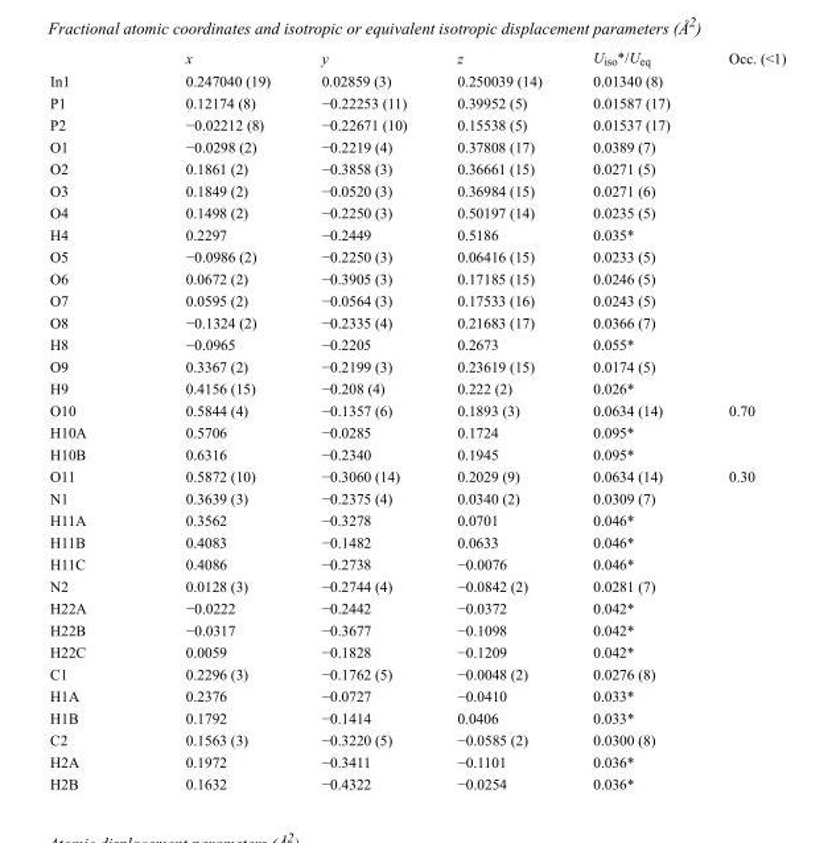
<table><thead><tr><td></td><td>x</td><td>y</td><td>z</td><td>U<sub>iso</sub>*/U<sub>eq</sub></td><td>Occ. (&lt;1)</td></tr></thead><tbody><tr><td>In1</td><td>0.247040 (19)</td><td>0.02859 (3)</td><td>0.250039 (14)</td><td>0.01340 (8)</td><td></td></tr><tr><td>P1</td><td>0.12174 (8)</td><td>−0.22253 (11)</td><td>0.39952 (5)</td><td>0.01587 (17)</td><td></td></tr><tr><td>P2</td><td>−0.02212 (8)</td><td>−0.22671 (10)</td><td>0.15538 (5)</td><td>0.01537 (17)</td><td></td></tr><tr><td>O1</td><td>−0.0298 (2)</td><td>−0.2219 (4)</td><td>0.37808 (17)</td><td>0.0389 (7)</td><td></td></tr><tr><td>O2</td><td>0.1861 (2)</td><td>−0.3858 (3)</td><td>0.36661 (15)</td><td>0.0271 (5)</td><td></td></tr><tr><td>O3</td><td>0.1849 (2)</td><td>−0.0520 (3)</td><td>0.36984 (15)</td><td>0.0271 (6)</td><td></td></tr><tr><td>O4</td><td>0.1498 (2)</td><td>−0.2250 (3)</td><td>0.50197 (14)</td><td>0.0235 (5)</td><td></td></tr><tr><td>H4</td><td>0.2297</td><td>−0.2449</td><td>0.5186</td><td>0.035*</td><td></td></tr><tr><td>O5</td><td>−0.0986 (2)</td><td>−0.2250 (3)</td><td>0.06416 (15)</td><td>0.0233 (5)</td><td></td></tr><tr><td>O6</td><td>0.0672 (2)</td><td>−0.3905 (3)</td><td>0.17185 (15)</td><td>0.0246 (5)</td><td></td></tr><tr><td>O7</td><td>0.0595 (2)</td><td>−0.0564 (3)</td><td>0.17533 (16)</td><td>0.0243 (5)</td><td></td></tr><tr><td>O8</td><td>−0.1324 (2)</td><td>−0.2335 (4)</td><td>0.21683 (17)</td><td>0.0366 (7)</td><td></td></tr><tr><td>H8</td><td>−0.0965</td><td>−0.2205</td><td>0.2673</td><td>0.055*</td><td></td></tr><tr><td>O9</td><td>0.3367 (2)</td><td>−0.2199 (3)</td><td>0.23619 (15)</td><td>0.0174 (5)</td><td></td></tr><tr><td>H9</td><td>0.4156 (15)</td><td>−0.208 (4)</td><td>0.222 (2)</td><td>0.026*</td><td></td></tr><tr><td>O10</td><td>0.5844 (4)</td><td>−0.1357 (6)</td><td>0.1893 (3)</td><td>0.0634 (14)</td><td>0.70</td></tr><tr><td>H10A</td><td>0.5706</td><td>−0.0285</td><td>0.1724</td><td>0.095*</td><td></td></tr><tr><td>H10B</td><td>0.6316</td><td>−0.2340</td><td>0.1945</td><td>0.095*</td><td></td></tr><tr><td>O11</td><td>0.5872 (10)</td><td>−0.3060 (14)</td><td>0.2029 (9)</td><td>0.0634 (14)</td><td>0.30</td></tr><tr><td>N1</td><td>0.3639 (3)</td><td>−0.2375 (4)</td><td>0.0340 (2)</td><td>0.0309 (7)</td><td></td></tr><tr><td>H11A</td><td>0.3562</td><td>−0.3278</td><td>0.0701</td><td>0.046*</td><td></td></tr><tr><td>H11B</td><td>0.4083</td><td>−0.1482</td><td>0.0633</td><td>0.046*</td><td></td></tr><tr><td>H11C</td><td>0.4086</td><td>−0.2738</td><td>−0.0076</td><td>0.046*</td><td></td></tr><tr><td>N2</td><td>0.0128 (3)</td><td>−0.2744 (4)</td><td>−0.0842 (2)</td><td>0.0281 (7)</td><td></td></tr><tr><td>H22A</td><td>−0.0222</td><td>−0.2442</td><td>−0.0372</td><td>0.042*</td><td></td></tr><tr><td>H22B</td><td>−0.0317</td><td>−0.3677</td><td>−0.1098</td><td>0.042*</td><td></td></tr><tr><td>H22C</td><td>0.0059</td><td>−0.1828</td><td>−0.1209</td><td>0.042*</td><td></td></tr><tr><td>C1</td><td>0.2296 (3)</td><td>−0.1762 (5)</td><td>−0.0048 (2)</td><td>0.0276 (8)</td><td></td></tr><tr><td>H1A</td><td>0.2376</td><td>−0.0727</td><td>−0.0410</td><td>0.033*</td><td></td></tr><tr><td>H1B</td><td>0.1792</td><td>−0.1414</td><td>0.0406</td><td>0.033*</td><td></td></tr><tr><td>C2</td><td>0.1563 (3)</td><td>−0.3220 (5)</td><td>−0.0585 (2)</td><td>0.0300 (8)</td><td></td></tr><tr><td>H2A</td><td>0.1972</td><td>−0.3411</td><td>−0.1101</td><td>0.036*</td><td></td></tr><tr><td>H2B</td><td>0.1632</td><td>−0.4322</td><td>−0.0254</td><td>0.036*</td><td></td></tr></tbody></table>